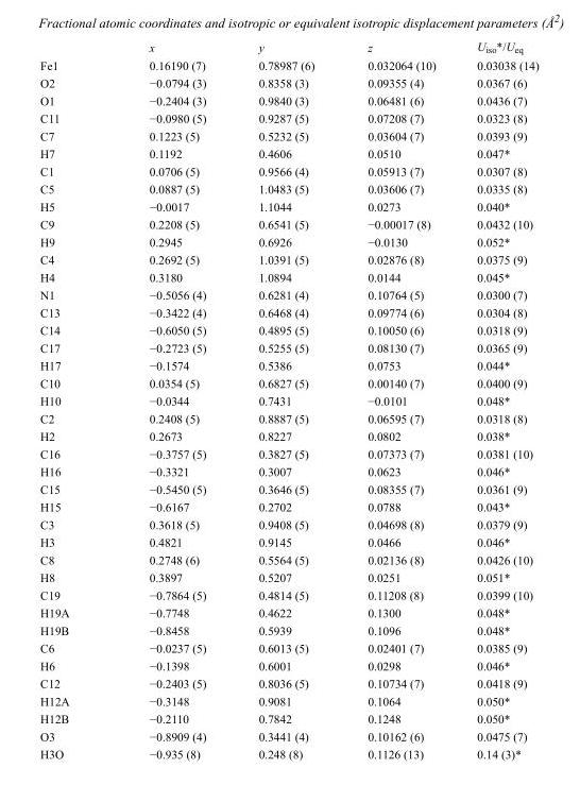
<table><thead><tr><td></td><td>x</td><td>y</td><td>z</td><td>U<sub>iso</sub>*/U<sub>eq</sub></td></tr></thead><tbody><tr><td>Fe1</td><td>0.16190 (7)</td><td>0.78987 (6)</td><td>0.032064 (10)</td><td>0.03038 (14)</td></tr><tr><td>O2</td><td>−0.0794 (3)</td><td>0.8358 (3)</td><td>0.09355 (4)</td><td>0.0367 (6)</td></tr><tr><td>O1</td><td>−0.2404 (3)</td><td>0.9840 (3)</td><td>0.06481 (6)</td><td>0.0436 (7)</td></tr><tr><td>C11</td><td>−0.0980 (5)</td><td>0.9287 (5)</td><td>0.07208 (7)</td><td>0.0323 (8)</td></tr><tr><td>C7</td><td>0.1223 (5)</td><td>0.5232 (5)</td><td>0.03604 (7)</td><td>0.0393 (9)</td></tr><tr><td>H7</td><td>0.1192</td><td>0.4606</td><td>0.0510</td><td>0.047*</td></tr><tr><td>C1</td><td>0.0706 (5)</td><td>0.9566 (4)</td><td>0.05913 (7)</td><td>0.0307 (8)</td></tr><tr><td>C5</td><td>0.0887 (5)</td><td>1.0483 (5)</td><td>0.03606 (7)</td><td>0.0335 (8)</td></tr><tr><td>H5</td><td>−0.0017</td><td>1.1044</td><td>0.0273</td><td>0.040*</td></tr><tr><td>C9</td><td>0.2208 (5)</td><td>0.6541 (5)</td><td>−0.00017 (8)</td><td>0.0432 (10)</td></tr><tr><td>H9</td><td>0.2945</td><td>0.6926</td><td>−0.0130</td><td>0.052*</td></tr><tr><td>C4</td><td>0.2692 (5)</td><td>1.0391 (5)</td><td>0.02876 (8)</td><td>0.0375 (9)</td></tr><tr><td>H4</td><td>0.3180</td><td>1.0894</td><td>0.0144</td><td>0.045*</td></tr><tr><td>N1</td><td>−0.5056 (4)</td><td>0.6281 (4)</td><td>0.10764 (5)</td><td>0.0300 (7)</td></tr><tr><td>C13</td><td>−0.3422 (4)</td><td>0.6468 (4)</td><td>0.09774 (6)</td><td>0.0304 (8)</td></tr><tr><td>C14</td><td>−0.6050 (5)</td><td>0.4895 (5)</td><td>0.10050 (6)</td><td>0.0318 (9)</td></tr><tr><td>C17</td><td>−0.2723 (5)</td><td>0.5255 (5)</td><td>0.08130 (7)</td><td>0.0365 (9)</td></tr><tr><td>H17</td><td>−0.1574</td><td>0.5386</td><td>0.0753</td><td>0.044*</td></tr><tr><td>C10</td><td>0.0354 (5)</td><td>0.6827 (5)</td><td>0.00140 (7)</td><td>0.0400 (9)</td></tr><tr><td>H10</td><td>−0.0344</td><td>0.7431</td><td>−0.0101</td><td>0.048*</td></tr><tr><td>C2</td><td>0.2408 (5)</td><td>0.8887 (5)</td><td>0.06595 (7)</td><td>0.0318 (8)</td></tr><tr><td>H2</td><td>0.2673</td><td>0.8227</td><td>0.0802</td><td>0.038*</td></tr><tr><td>C16</td><td>−0.3757 (5)</td><td>0.3827 (5)</td><td>0.07373 (7)</td><td>0.0381 (10)</td></tr><tr><td>H16</td><td>−0.3321</td><td>0.3007</td><td>0.0623</td><td>0.046*</td></tr><tr><td>C15</td><td>−0.5450 (5)</td><td>0.3646 (5)</td><td>0.08355 (7)</td><td>0.0361 (9)</td></tr><tr><td>H15</td><td>−0.6167</td><td>0.2702</td><td>0.0788</td><td>0.043*</td></tr><tr><td>C3</td><td>0.3618 (5)</td><td>0.9408 (5)</td><td>0.04698 (8)</td><td>0.0379 (9)</td></tr><tr><td>H3</td><td>0.4821</td><td>0.9145</td><td>0.0466</td><td>0.046*</td></tr><tr><td>C8</td><td>0.2748 (6)</td><td>0.5564 (5)</td><td>0.02136 (8)</td><td>0.0426 (10)</td></tr><tr><td>H8</td><td>0.3897</td><td>0.5207</td><td>0.0251</td><td>0.051*</td></tr><tr><td>C19</td><td>−0.7864 (5)</td><td>0.4814 (5)</td><td>0.11208 (8)</td><td>0.0399 (10)</td></tr><tr><td>H19A</td><td>−0.7748</td><td>0.4622</td><td>0.1300</td><td>0.048*</td></tr><tr><td>H19B</td><td>−0.8458</td><td>0.5939</td><td>0.1096</td><td>0.048*</td></tr><tr><td>C6</td><td>−0.0237 (5)</td><td>0.6013 (5)</td><td>0.02401 (7)</td><td>0.0385 (9)</td></tr><tr><td>H6</td><td>−0.1398</td><td>0.6001</td><td>0.0298</td><td>0.046*</td></tr><tr><td>C12</td><td>−0.2403 (5)</td><td>0.8036 (5)</td><td>0.10734 (7)</td><td>0.0418 (9)</td></tr><tr><td>H12A</td><td>−0.3148</td><td>0.9081</td><td>0.1064</td><td>0.050*</td></tr><tr><td>H12B</td><td>−0.2110</td><td>0.7842</td><td>0.1248</td><td>0.050*</td></tr><tr><td>O3</td><td>−0.8909 (4)</td><td>0.3441 (4)</td><td>0.10162 (6)</td><td>0.0475 (7)</td></tr><tr><td>H3O</td><td>−0.935 (8)</td><td>0.248 (8)</td><td>0.1126 (13)</td><td>0.14 (3)*</td></tr></tbody></table>